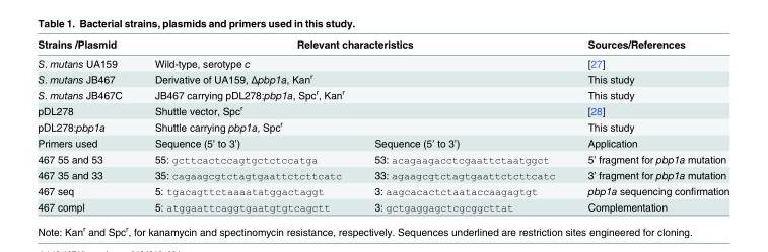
<table><thead><tr><td>Strains /Plasmid</td><td colspan="2">Relevant characteristics</td><td>Sources/References</td></tr></thead><tbody><tr><td>S. mutans UA159</td><td colspan="2">Wild-type, serotype c</td><td>[27]</td></tr><tr><td>S. mutans JB467</td><td colspan="2">Derivative of UA159, Δpbp1a, Kan<sup>r</sup></td><td>This study</td></tr><tr><td>S. mutans JB467C</td><td colspan="2">JB467 carrying pDL278:pbp1a, Spc<sup>r</sup>, Kan<sup>r</sup></td><td>This study</td></tr><tr><td>pDL278</td><td colspan="2">Shuttle vector, Spc<sup>r</sup></td><td>[28]</td></tr><tr><td>pDL278:pbp1a</td><td colspan="2">Shuttle carrying pbp1a, Spc<sup>r</sup></td><td>This study</td></tr><tr><td>Primers used</td><td>Sequence (5’ to 3’)</td><td>Sequence (5’ to 3’)</td><td>Application</td></tr><tr><td>467 55 and 53</td><td>55: gcttcactccagtgctctccatga</td><td>53: acagaagacctcgaattctaatggct</td><td>5’ fragment for pbp1a mutation</td></tr><tr><td>467 35 and 33</td><td>35: cagaagcgtctagtgaattctcttcatc</td><td>33: agaagcgtctagtgaattctcttcatc</td><td>3’ fragment for pbp1a mutation</td></tr><tr><td>467 seq</td><td>5: tgacagttctaaaatatggactaggt</td><td>3: aagcacactctaataccaagagtgt</td><td>pbp1a sequencing confirmation</td></tr><tr><td>467 compl</td><td>5: atggaattcaggtgaatgtgtcagctt</td><td>3: gctgaggagctcgcggcttat</td><td>Complementation</td></tr></tbody></table>